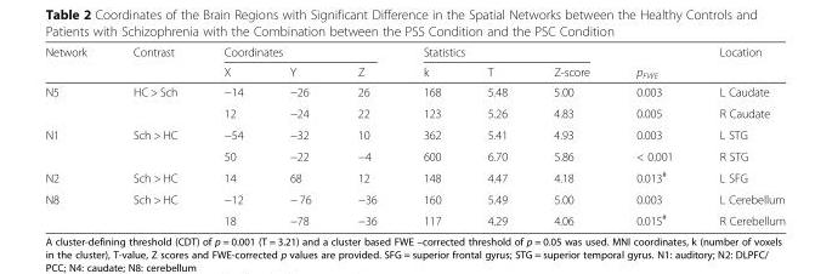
<table><thead><tr><td rowspan="2">Network</td><td rowspan="2">Contrast</td><td colspan="3">Coordinates</td><td colspan="3">Statistics</td><td rowspan="2">p<sub>FWE</sub></td><td rowspan="2">Location</td></tr><tr><td>X</td><td>Y</td><td>Z</td><td>k</td><td>T</td><td>Z-score</td></tr></thead><tbody><tr><td rowspan="2">N5</td><td>HC &gt; Sch</td><td>−14</td><td>−26</td><td>26</td><td>168</td><td>5.48</td><td>5.00</td><td>0.003</td><td>L Caudate</td></tr><tr><td></td><td>12</td><td>−24</td><td>22</td><td>123</td><td>5.26</td><td>4.83</td><td>0.005</td><td>R Caudate</td></tr><tr><td rowspan="2">N1</td><td>Sch &gt; HC</td><td>−54</td><td>−32</td><td>10</td><td>362</td><td>5.41</td><td>4.93</td><td>0.003</td><td>L STG</td></tr><tr><td></td><td>50</td><td>−22</td><td>−4</td><td>600</td><td>6.70</td><td>5.86</td><td>&lt; 0.001</td><td>R STG</td></tr><tr><td>N2</td><td>Sch &gt; HC</td><td>14</td><td>68</td><td>12</td><td>148</td><td>4.47</td><td>4.18</td><td>0.013<sup>#</sup></td><td>L SFG</td></tr><tr><td rowspan="2">N8</td><td>Sch &gt; HC</td><td>−12</td><td>− 76</td><td>−36</td><td>160</td><td>5.49</td><td>5.00</td><td>0.003</td><td>L Cerebellum</td></tr><tr><td></td><td>18</td><td>−78</td><td>−36</td><td>117</td><td>4.29</td><td>4.06</td><td>0.015<sup>#</sup></td><td>R Cerebellum</td></tr></tbody></table>